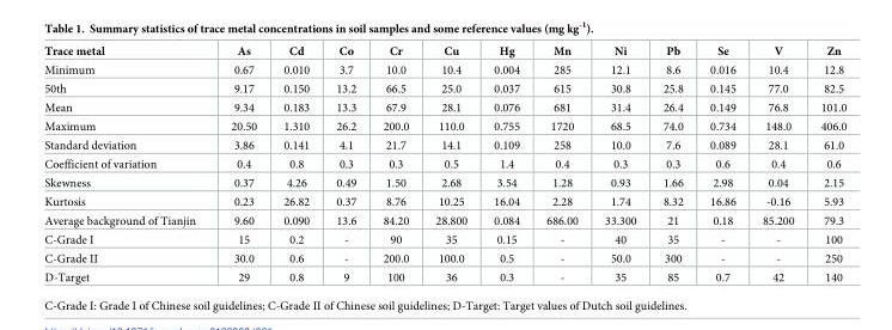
<table><thead><tr><td>Trace metal</td><td>As</td><td>Cd</td><td>Co</td><td>Cr</td><td>Cu</td><td>Hg</td><td>Mn</td><td>Ni</td><td>Pb</td><td>Se</td><td>V</td><td>Zn</td></tr></thead><tbody><tr><td>Minimum</td><td>0.67</td><td>0.010</td><td>3.7</td><td>10.0</td><td>10.4</td><td>0.004</td><td>285</td><td>12.1</td><td>8.6</td><td>0.016</td><td>10.4</td><td>12.8</td></tr><tr><td>50th</td><td>9.17</td><td>0.150</td><td>13.2</td><td>66.5</td><td>25.0</td><td>0.037</td><td>615</td><td>30.8</td><td>25.8</td><td>0.145</td><td>77.0</td><td>82.5</td></tr><tr><td>Mean</td><td>9.34</td><td>0.183</td><td>13.3</td><td>67.9</td><td>28.1</td><td>0.076</td><td>681</td><td>31.4</td><td>26.4</td><td>0.149</td><td>76.8</td><td>101.0</td></tr><tr><td>Maximum</td><td>20.50</td><td>1.310</td><td>26.2</td><td>200.0</td><td>110.0</td><td>0.755</td><td>1720</td><td>68.5</td><td>74.0</td><td>0.734</td><td>148.0</td><td>406.0</td></tr><tr><td>Standard deviation</td><td>3.86</td><td>0.141</td><td>4.1</td><td>21.7</td><td>14.1</td><td>0.109</td><td>258</td><td>10.0</td><td>7.6</td><td>0.089</td><td>28.1</td><td>61.0</td></tr><tr><td>Coefficient of variation</td><td>0.4</td><td>0.8</td><td>0.3</td><td>0.3</td><td>0.5</td><td>1.4</td><td>0.4</td><td>0.3</td><td>0.3</td><td>0.6</td><td>0.4</td><td>0.6</td></tr><tr><td>Skewness</td><td>0.37</td><td>4.26</td><td>0.49</td><td>1.50</td><td>2.68</td><td>3.54</td><td>1.28</td><td>0.93</td><td>1.66</td><td>2.98</td><td>0.04</td><td>2.15</td></tr><tr><td>Kurtosis</td><td>0.23</td><td>26.82</td><td>0.37</td><td>8.76</td><td>10.25</td><td>16.04</td><td>2.28</td><td>1.74</td><td>8.32</td><td>16.86</td><td>-0.16</td><td>5.93</td></tr><tr><td>Average background of Tianjin</td><td>9.60</td><td>0.090</td><td>13.6</td><td>84.20</td><td>28.800</td><td>0.084</td><td>686.00</td><td>33.300</td><td>21</td><td>0.18</td><td>85.200</td><td>79.3</td></tr><tr><td>C-Grade I</td><td>15</td><td>0.2</td><td>-</td><td>90</td><td>35</td><td>0.15</td><td>-</td><td>40</td><td>35</td><td>-</td><td>-</td><td>100</td></tr><tr><td>C-Grade II</td><td>30.0</td><td>0.6</td><td>-</td><td>200.0</td><td>100.0</td><td>0.5</td><td>-</td><td>50.0</td><td>300</td><td>-</td><td>-</td><td>250</td></tr><tr><td>D-Target</td><td>29</td><td>0.8</td><td>9</td><td>100</td><td>36</td><td>0.3</td><td>-</td><td>35</td><td>85</td><td>0.7</td><td>42</td><td>140</td></tr></tbody></table>